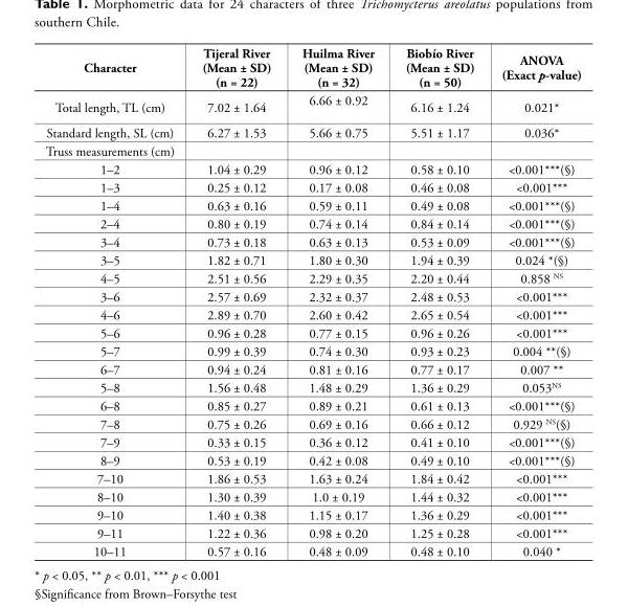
<table><thead><tr><td>Character</td><td>Tijeral River (Mean ± SD) (n = 22)</td><td>Huilma River (Mean ± SD) (n = 32)</td><td>Biobío River (Mean ± SD) (n = 50)</td><td>ANOVA (Exact p-value)</td></tr></thead><tbody><tr><td>Total length, TL (cm)</td><td>7.02 ± 1.64</td><td>6.66 ± 0.92</td><td>6.16 ± 1.24</td><td>0.021*</td></tr><tr><td>Standard length, SL (cm)</td><td>6.27 ± 1.53</td><td>5.66 ± 0.75</td><td>5.51 ± 1.17</td><td>0.036*</td></tr><tr><td colspan="5">Truss measurements (cm)</td></tr><tr><td>1–2</td><td>1.04 ± 0.29</td><td>0.96 ± 0.12</td><td>0.58 ± 0.10</td><td>&lt;0.001***(§)</td></tr><tr><td>1–3</td><td>0.25 ± 0.12</td><td>0.17 ± 0.08</td><td>0.46 ± 0.08</td><td>&lt;0.001***</td></tr><tr><td>1–4</td><td>0.63 ± 0.16</td><td>0.59 ± 0.11</td><td>0.49 ± 0.08</td><td>&lt;0.001***(§)</td></tr><tr><td>2–4</td><td>0.80 ± 0.19</td><td>0.74 ± 0.14</td><td>0.84 ± 0.14</td><td>&lt;0.001***(§)</td></tr><tr><td>3–4</td><td>0.73 ± 0.18</td><td>0.63 ± 0.13</td><td>0.53 ± 0.09</td><td>&lt;0.001***(§)</td></tr><tr><td>3–5</td><td>1.82 ± 0.71</td><td>1.80 ± 0.30</td><td>1.94 ± 0.39</td><td>0.024 *(§)</td></tr><tr><td>4–5</td><td>2.51 ± 0.56</td><td>2.29 ± 0.35</td><td>2.20 ± 0.44</td><td>0.858 <sup>NS</sup></td></tr><tr><td>3–6</td><td>2.57 ± 0.69</td><td>2.32 ± 0.37</td><td>2.48 ± 0.53</td><td>&lt;0.001***</td></tr><tr><td>4–6</td><td>2.89 ± 0.70</td><td>2.60 ± 0.42</td><td>2.65 ± 0.54</td><td>&lt;0.001***</td></tr><tr><td>5–6</td><td>0.96 ± 0.28</td><td>0.77 ± 0.15</td><td>0.96 ± 0.26</td><td>&lt;0.001***</td></tr><tr><td>5–7</td><td>0.99 ± 0.39</td><td>0.74 ± 0.30</td><td>0.93 ± 0.23</td><td>0.004 **(§)</td></tr><tr><td>6–7</td><td>0.94 ± 0.24</td><td>0.81 ± 0.16</td><td>0.77 ± 0.17</td><td>0.007 **</td></tr><tr><td>5–8</td><td>1.56 ± 0.48</td><td>1.48 ± 0.29</td><td>1.36 ± 0.29</td><td>0.053<sup>NS</sup></td></tr><tr><td>6–8</td><td>0.85 ± 0.27</td><td>0.89 ± 0.21</td><td>0.61 ± 0.13</td><td>&lt;0.001***(§)</td></tr><tr><td>7–8</td><td>0.75 ± 0.26</td><td>0.69 ± 0.16</td><td>0.66 ± 0.12</td><td>0.929 <sup>NS</sup>(§)</td></tr><tr><td>7–9</td><td>0.33 ± 0.15</td><td>0.36 ± 0.12</td><td>0.41 ± 0.10</td><td>&lt;0.001***(§)</td></tr><tr><td>8–9</td><td>0.53 ± 0.19</td><td>0.42 ± 0.08</td><td>0.49 ± 0.10</td><td>&lt;0.001***(§)</td></tr><tr><td>7–10</td><td>1.86 ± 0.53</td><td>1.63 ± 0.24</td><td>1.84 ± 0.42</td><td>&lt;0.001***</td></tr><tr><td>8–10</td><td>1.30 ± 0.39</td><td>1.0 ± 0.19</td><td>1.44 ± 0.32</td><td>&lt;0.001***</td></tr><tr><td>9–10</td><td>1.40 ± 0.38</td><td>1.15 ± 0.17</td><td>1.36 ± 0.29</td><td>&lt;0.001***</td></tr><tr><td>9–11</td><td>1.22 ± 0.36</td><td>0.98 ± 0.20</td><td>1.25 ± 0.28</td><td>&lt;0.001***</td></tr><tr><td>10–11</td><td>0.57 ± 0.16</td><td>0.48 ± 0.09</td><td>0.48 ± 0.10</td><td>0.040 *</td></tr></tbody></table>